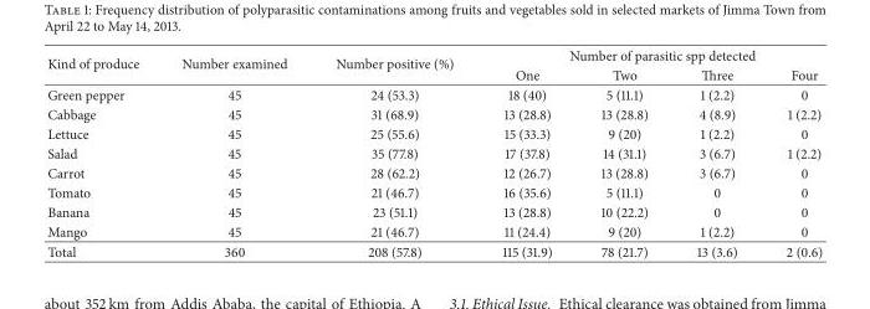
<table><thead><tr><td rowspan="2">Kind of produce</td><td rowspan="2">Number examined</td><td rowspan="2">Number positive (%)</td><td colspan="4">Number of parasitic spp detected</td></tr><tr><td>One</td><td>Two</td><td>Three</td><td>Four</td></tr></thead><tbody><tr><td>Green pepper</td><td>45</td><td>24 (53.3)</td><td>18 (40)</td><td>5 (11.1)</td><td>1 (2.2)</td><td>0</td></tr><tr><td>Cabbage</td><td>45</td><td>31 (68.9)</td><td>13 (28.8)</td><td>13 (28.8)</td><td>4 (8.9)</td><td>1 (2.2)</td></tr><tr><td>Lettuce</td><td>45</td><td>25 (55.6)</td><td>15 (33.3)</td><td>9 (20)</td><td>1 (2.2)</td><td>0</td></tr><tr><td>Salad</td><td>45</td><td>35 (77.8)</td><td>17 (37.8)</td><td>14 (31.1)</td><td>3 (6.7)</td><td>1 (2.2)</td></tr><tr><td>Carrot</td><td>45</td><td>28 (62.2)</td><td>12 (26.7)</td><td>13 (28.8)</td><td>3 (6.7)</td><td>0</td></tr><tr><td>Tomato</td><td>45</td><td>21 (46.7)</td><td>16 (35.6)</td><td>5 (11.1)</td><td>0</td><td>0</td></tr><tr><td>Banana</td><td>45</td><td>23 (51.1)</td><td>13 (28.8)</td><td>10 (22.2)</td><td>0</td><td>0</td></tr><tr><td>Mango</td><td>45</td><td>21 (46.7)</td><td>11 (24.4)</td><td>9 (20)</td><td>1 (2.2)</td><td>0</td></tr><tr><td>Total</td><td>360</td><td>208 (57.8)</td><td>115 (31.9)</td><td>78 (21.7)</td><td>13 (3.6)</td><td>2 (0.6)</td></tr></tbody></table>